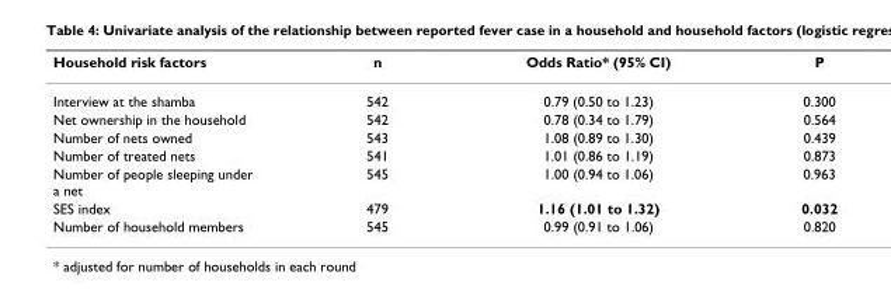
<table><thead><tr><td>Household risk factors</td><td>n</td><td>Odds Ratio* (95% CI)</td><td>P</td></tr></thead><tbody><tr><td>Interview at the shamba</td><td>542</td><td>0.79 (0.50 to 1.23)</td><td>0.300</td></tr><tr><td>Net ownership in the household</td><td>542</td><td>0.78 (0.34 to 1.79)</td><td>0.564</td></tr><tr><td>Number of nets owned</td><td>543</td><td>1.08 (0.89 to 1.30)</td><td>0.439</td></tr><tr><td>Number of treated nets</td><td>541</td><td>1.01 (0.86 to 1.19)</td><td>0.873</td></tr><tr><td>Number of people sleeping under a net</td><td>545</td><td>1.00 (0.94 to 1.06)</td><td>0.963</td></tr><tr><td>SES index</td><td>479</td><td>1.16 (1.01 to 1.32)</td><td>0.032</td></tr><tr><td>Number of household members</td><td>545</td><td>0.99 (0.91 to 1.06)</td><td>0.820</td></tr></tbody></table>